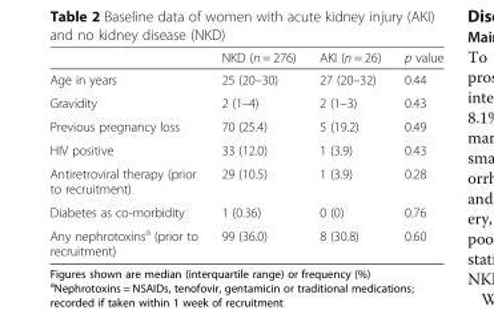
<table><thead><tr><td></td><td>NKD (n = 276)</td><td>AKI (n = 26)</td><td>p value</td></tr></thead><tbody><tr><td>Age in years</td><td>25 (20–30)</td><td>27 (20–32)</td><td>0.44</td></tr><tr><td>Gravidity</td><td>2 (1–4)</td><td>2 (1–3)</td><td>0.43</td></tr><tr><td>Previous pregnancy loss</td><td>70 (25.4)</td><td>5 (19.2)</td><td>0.49</td></tr><tr><td>HIV positive</td><td>33 (12.0)</td><td>1 (3.9)</td><td>0.43</td></tr><tr><td>Antiretroviral therapy (prior to recruitment)</td><td>29 (10.5)</td><td>1 (3.9)</td><td>0.28</td></tr><tr><td>Diabetes as co-morbidity</td><td>1 (0.36)</td><td>0 (0)</td><td>0.76</td></tr><tr><td>Any nephrotoxins<sup>a</sup> (prior to recruitment)</td><td>99 (36.0)</td><td>8 (30.8)</td><td>0.60</td></tr></tbody></table>